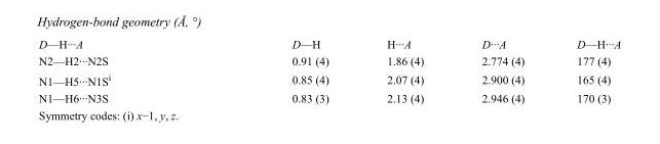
<table><tbody><tr><td>D—H···A</td><td>D—H</td><td>H···A</td><td>D···A</td><td>D—H···A</td></tr><tr><td>N2—H2···N2S</td><td>0.91 (4)</td><td>1.86 (4)</td><td>2.774 (4)</td><td>177 (4)</td></tr><tr><td>N1—H5···N1S<sup>i</sup></td><td>0.85 (4)</td><td>2.07 (4)</td><td>2.900 (4)</td><td>165 (4)</td></tr><tr><td>N1—H6···N3S</td><td>0.83 (3)</td><td>2.13 (4)</td><td>2.946 (4)</td><td>170 (3)</td></tr></tbody></table>